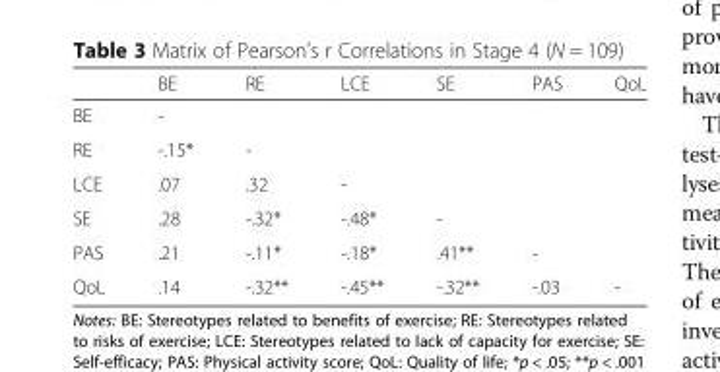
<table><thead><tr><td></td><td>BE</td><td>RE</td><td>LCE</td><td>SE</td><td>PAS</td><td>QoL</td></tr></thead><tbody><tr><td>BE</td><td>-</td><td></td><td></td><td></td><td></td><td></td></tr><tr><td>RE</td><td>-.15*</td><td>-</td><td></td><td></td><td></td><td></td></tr><tr><td>LCE</td><td>.07</td><td>.32</td><td>-</td><td></td><td></td><td></td></tr><tr><td>SE</td><td>.28</td><td>-.32*</td><td>-.48*</td><td>-</td><td></td><td></td></tr><tr><td>PAS</td><td>.21</td><td>-.11*</td><td>-.18*</td><td>.41**</td><td>-</td><td></td></tr><tr><td>QoL</td><td>.14</td><td>-.32**</td><td>-.45**</td><td>-.32**</td><td>-.03</td><td>-</td></tr></tbody></table>